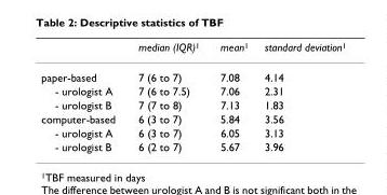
<table><thead><tr><td></td><td>median (IQR)<sup>1</sup></td><td>mean<sup>1</sup></td><td>standard deviation<sup>1</sup></td></tr></thead><tbody><tr><td>paper-based</td><td>7 (6 to 7)</td><td>7.08</td><td>4.14</td></tr><tr><td>- urologist A</td><td>7 (6 to 7.5)</td><td>7.06</td><td>2.31</td></tr><tr><td>- urologist B</td><td>7 (7 to 8)</td><td>7.13</td><td>1.83</td></tr><tr><td>computer-based</td><td>6 (3 to 7)</td><td>5.84</td><td>3.56</td></tr><tr><td>- urologist A</td><td>6 (3 to 7)</td><td>6.05</td><td>3.13</td></tr><tr><td>- urologist B</td><td>6 (2 to 7)</td><td>5.67</td><td>3.96</td></tr></tbody></table>